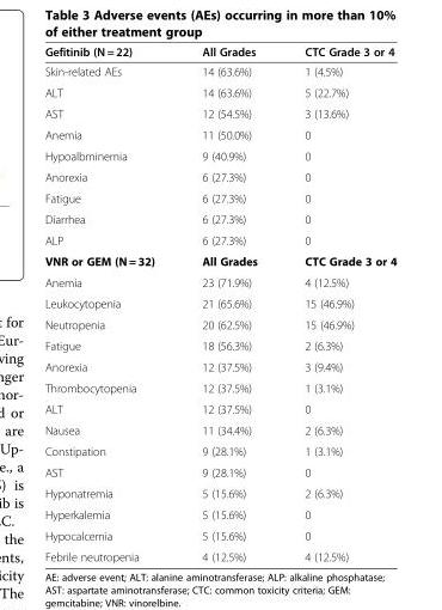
<table><thead><tr><td>Gefitinib (N = 22)</td><td>All Grades</td><td>CTC Grade 3 or 4</td></tr></thead><tbody><tr><td>Skin-related AEs</td><td>14 (63.6%)</td><td>1 (4.5%)</td></tr><tr><td>ALT</td><td>14 (63.6%)</td><td>5 (22.7%)</td></tr><tr><td>AST</td><td>12 (54.5%)</td><td>3 (13.6%)</td></tr><tr><td>Anemia</td><td>11 (50.0%)</td><td>0</td></tr><tr><td>Hypoalbminemia</td><td>9 (40.9%)</td><td>0</td></tr><tr><td>Anorexia</td><td>6 (27.3%)</td><td>0</td></tr><tr><td>Fatigue</td><td>6 (27.3%)</td><td>0</td></tr><tr><td>Diarrhea</td><td>6 (27.3%)</td><td>0</td></tr><tr><td>ALP</td><td>6 (27.3%)</td><td>0</td></tr><tr><td>VNR or GEM (N = 32)</td><td>All Grades</td><td>CTC Grade 3 or 4</td></tr><tr><td>Anemia</td><td>23 (71.9%)</td><td>4 (12.5%)</td></tr><tr><td>Leukocytopenia</td><td>21 (65.6%)</td><td>15 (46.9%)</td></tr><tr><td>Neutropenia</td><td>20 (62.5%)</td><td>15 (46.9%)</td></tr><tr><td>Fatigue</td><td>18 (56.3%)</td><td>2 (6.3%)</td></tr><tr><td>Anorexia</td><td>12 (37.5%)</td><td>3 (9.4%)</td></tr><tr><td>Thrombocytopenia</td><td>12 (37.5%)</td><td>1 (3.1%)</td></tr><tr><td>ALT</td><td>12 (37.5%)</td><td>0</td></tr><tr><td>Nausea</td><td>11 (34.4%)</td><td>2 (6.3%)</td></tr><tr><td>Constipation</td><td>9 (28.1%)</td><td>1 (3.1%)</td></tr><tr><td>AST</td><td>9 (28.1%)</td><td>0</td></tr><tr><td>Hyponatremia</td><td>5 (15.6%)</td><td>2 (6.3%)</td></tr><tr><td>Hyperkalemia</td><td>5 (15.6%)</td><td>0</td></tr><tr><td>Hypocalcemia</td><td>5 (15.6%)</td><td>0</td></tr><tr><td>Febrile neutropenia</td><td>4 (12.5%)</td><td>4 (12.5%)</td></tr></tbody></table>